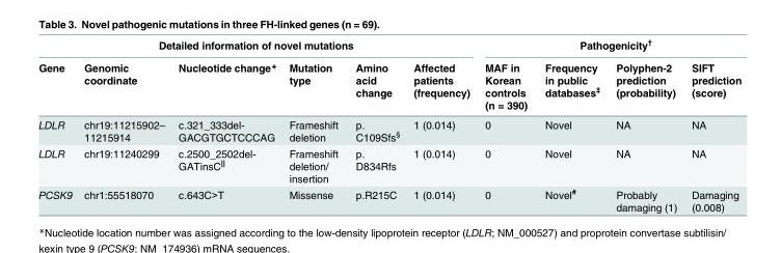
<table><thead><tr><td colspan="6">Detailed information of novel mutations</td><td colspan="4">Pathogenicity<sup>†</sup></td></tr><tr><td>Gene</td><td>Genomic coordinate</td><td>Nucleotide change*</td><td>Mutation type</td><td>Amino acid change</td><td>Affected patients (frequency)</td><td>MAF in Korean controls (n = 390)</td><td>Frequency in public databases<sup>‡</sup></td><td>Polyphen-2 prediction (probability)</td><td>SIFT prediction (score)</td></tr></thead><tbody><tr><td>LDLR</td><td>chr19:11215902– 11215914</td><td>c.321_333del- GACGTGCTCCCAG</td><td>Frameshift deletion</td><td>p. C109Sfs<sup>§</sup></td><td>1 (0.014)</td><td>0</td><td>Novel</td><td>NA</td><td>NA</td></tr><tr><td>LDLR</td><td>chr19:11240299</td><td>c.2500_2502del- GATinsC<sup>||</sup></td><td>Frameshift deletion/ insertion</td><td>p. D834Rfs</td><td>1 (0.014)</td><td>0</td><td>Novel</td><td>NA</td><td>NA</td></tr><tr><td>PCSK9</td><td>chr1:55518070</td><td>c.643C&gt;T</td><td>Missense</td><td>p.R215C</td><td>1 (0.014)</td><td>0</td><td>Novel<sup>#</sup></td><td>Probably damaging (1)</td><td>Damaging (0.008)</td></tr></tbody></table>